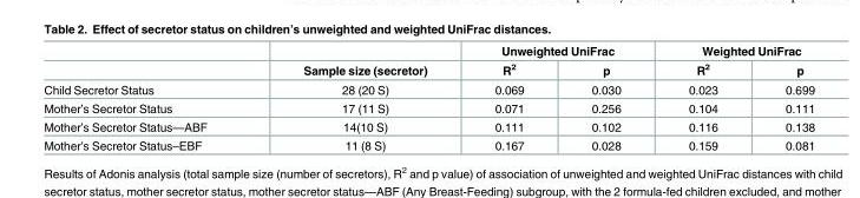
<table><thead><tr><td rowspan="2"></td><td rowspan="2">Sample size (secretor)</td><td colspan="2">Unweighted UniFrac</td><td colspan="2">Weighted UniFrac</td></tr><tr><td>R<sup>2</sup></td><td>p</td><td>R<sup>2</sup></td><td>p</td></tr></thead><tbody><tr><td>Child Secretor Status</td><td>28 (20 S)</td><td>0.069</td><td>0.030</td><td>0.023</td><td>0.699</td></tr><tr><td>Mother’s Secretor Status</td><td>17 (11 S)</td><td>0.071</td><td>0.256</td><td>0.104</td><td>0.111</td></tr><tr><td>Mother’s Secretor Status—ABF</td><td>14(10 S)</td><td>0.111</td><td>0.102</td><td>0.116</td><td>0.138</td></tr><tr><td>Mother’s Secretor Status–EBF</td><td>11 (8 S)</td><td>0.167</td><td>0.028</td><td>0.159</td><td>0.081</td></tr></tbody></table>